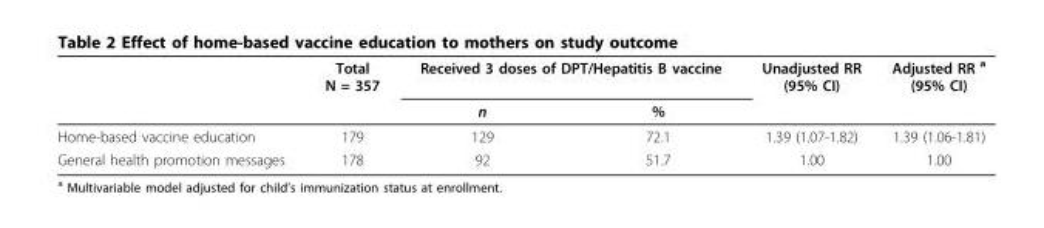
<table><thead><tr><td rowspan="2"></td><td rowspan="2">Total N = 357</td><td colspan="2">Received 3 doses of DPT/Hepatitis B vaccine</td><td rowspan="2">Unadjusted RR (95% CI)</td><td rowspan="2">Adjusted RR <sup>a</sup> (95% CI)</td></tr><tr><td>n</td><td>%</td></tr></thead><tbody><tr><td>Home-based vaccine education</td><td>179</td><td>129</td><td>72.1</td><td>1.39 (1.07-1.82)</td><td>1.39 (1.06-1.81)</td></tr><tr><td>General health promotion messages</td><td>178</td><td>92</td><td>51.7</td><td>1.00</td><td>1.00</td></tr></tbody></table>